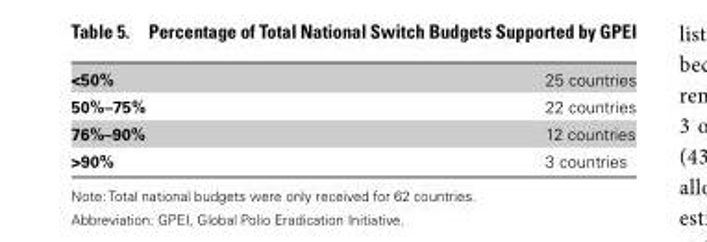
<table><tbody><tr><td>&lt;50%</td><td>25 countries</td></tr><tr><td>50%–75%</td><td>22 countries</td></tr><tr><td>76%–90%</td><td>12 countries</td></tr><tr><td>&gt;90%</td><td>3 countries</td></tr></tbody></table>